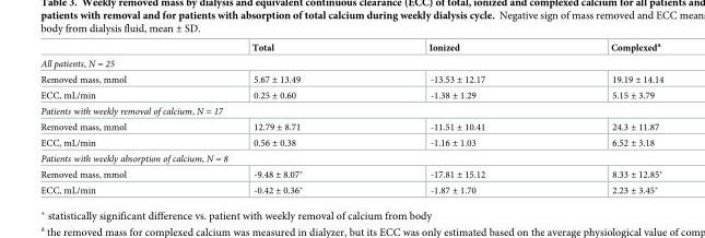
<table><thead><tr><td></td><td>Total</td><td>Ionized</td><td>Complexed<sup>a</sup></td></tr></thead><tbody><tr><td colspan="4">All patients, N = 25</td></tr><tr><td>Removed mass, mmol</td><td>5.67 ± 13.49</td><td>-13.53 ± 12.17</td><td>19.19 ± 14.14</td></tr><tr><td>ECC, mL/min</td><td>0.25 ± 0.60</td><td>-1.38 ± 1.29</td><td>5.15 ± 3.79</td></tr><tr><td colspan="4">Patients with weekly removal of calcium, N = 17</td></tr><tr><td>Removed mass, mmol</td><td>12.79 ± 8.71</td><td>-11.51 ± 10.41</td><td>24.3 ± 11.87</td></tr><tr><td>ECC, mL/min</td><td>0.56 ± 0.38</td><td>-1.16 ± 1.03</td><td>6.52 ± 3.18</td></tr><tr><td colspan="4">Patients with weekly absorption of calcium, N = 8</td></tr><tr><td>Removed mass, mmol</td><td>-9.48 ± 8.07*</td><td>-17.81 ± 15.12</td><td>8.33 ± 12.85*</td></tr><tr><td>ECC, mL/min</td><td>-0.42 ± 0.36*</td><td>-1.87 ± 1.70</td><td>2.23 ± 3.45*</td></tr></tbody></table>